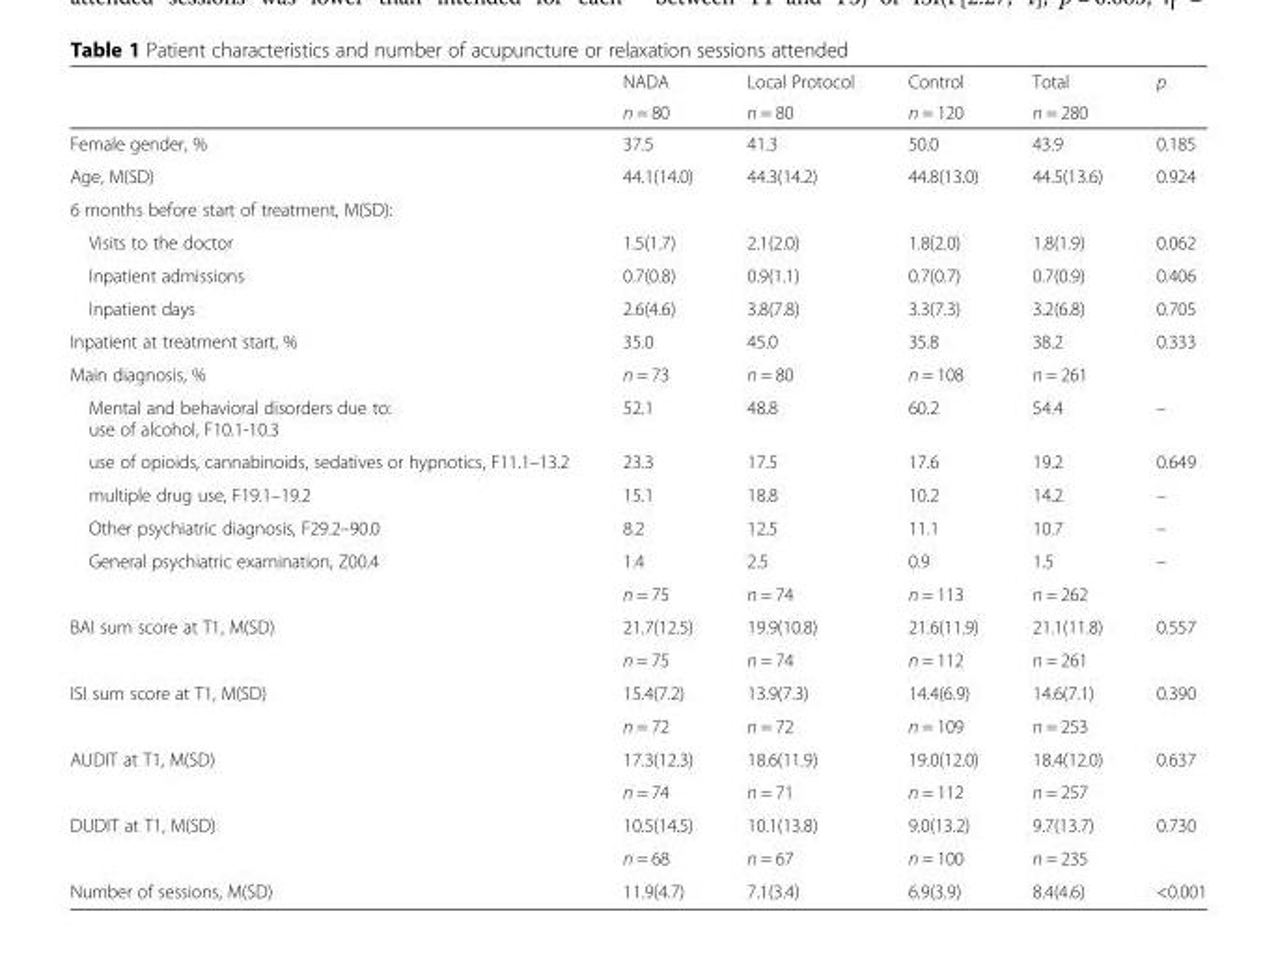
<table><thead><tr><td rowspan="2"></td><td rowspan="2">NADA n = 80</td><td rowspan="2">Local Protocol n = 80</td><td rowspan="2">Control n = 120</td><td rowspan="2">Total n = 280</td><td rowspan="2">p</td></tr><tr></tr></thead><tbody><tr><td>Female gender, %</td><td>37.5</td><td>41.3</td><td>50.0</td><td>43.9</td><td>0.185</td></tr><tr><td>Age, M(SD)</td><td>44.1(14.0)</td><td>44.3(14.2)</td><td>44.8(13.0)</td><td>44.5(13.6)</td><td>0.924</td></tr><tr><td colspan="6">6 months before start of treatment, M(SD):</td></tr><tr><td>Visits to the doctor</td><td>1.5(1.7)</td><td>2.1(2.0)</td><td>1.8(2.0)</td><td>1.8(1.9)</td><td>0.062</td></tr><tr><td>Inpatient admissions</td><td>0.7(0.8)</td><td>0.9(1.1)</td><td>0.7(0.7)</td><td>0.7(0.9)</td><td>0.406</td></tr><tr><td>Inpatient days</td><td>2.6(4.6)</td><td>3.8(7.8)</td><td>3.3(7.3)</td><td>3.2(6.8)</td><td>0.705</td></tr><tr><td>Inpatient at treatment start, %</td><td>35.0</td><td>45.0</td><td>35.8</td><td>38.2</td><td>0.333</td></tr><tr><td>Main diagnosis, %</td><td>n = 73</td><td>n = 80</td><td>n = 108</td><td>n = 261</td><td></td></tr><tr><td>Mental and behavioral disorders due to: use of alcohol, F10.1-10.3</td><td>52.1</td><td>48.8</td><td>60.2</td><td>54.4</td><td>–</td></tr><tr><td>use of opioids, cannabinoids, sedatives or hypnotics, F11.1–13.2</td><td>23.3</td><td>17.5</td><td>17.6</td><td>19.2</td><td>0.649</td></tr><tr><td>multiple drug use, F19.1–19.2</td><td>15.1</td><td>18.8</td><td>10.2</td><td>14.2</td><td>–</td></tr><tr><td>Other psychiatric diagnosis, F29.2–90.0</td><td>8.2</td><td>12.5</td><td>11.1</td><td>10.7</td><td>–</td></tr><tr><td rowspan="2">General psychiatric examination, Z00.4</td><td>1.4</td><td>2.5</td><td>0.9</td><td>1.5</td><td>–</td></tr><tr><td>n = 75</td><td>n = 74</td><td>n = 113</td><td>n = 262</td><td></td></tr><tr><td rowspan="2">BAI sum score at T1, M(SD)</td><td>21.7(12.5)</td><td>19.9(10.8)</td><td>21.6(11.9)</td><td>21.1(11.8)</td><td>0.557</td></tr><tr><td>n = 75</td><td>n = 74</td><td>n = 112</td><td>n = 261</td><td></td></tr><tr><td rowspan="2">ISI sum score at T1, M(SD)</td><td>15.4(7.2)</td><td>13.9(7.3)</td><td>14.4(6.9)</td><td>14.6(7.1)</td><td>0.390</td></tr><tr><td>n = 72</td><td>n = 72</td><td>n = 109</td><td>n = 253</td><td></td></tr><tr><td rowspan="2">AUDIT at T1, M(SD)</td><td>17.3(12.3)</td><td>18.6(11.9)</td><td>19.0(12.0)</td><td>18.4(12.0)</td><td>0.637</td></tr><tr><td>n = 74</td><td>n = 71</td><td>n = 112</td><td>n = 257</td><td></td></tr><tr><td rowspan="2">DUDIT at T1, M(SD)</td><td>10.5(14.5)</td><td>10.1(13.8)</td><td>9.0(13.2)</td><td>9.7(13.7)</td><td>0.730</td></tr><tr><td>n = 68</td><td>n = 67</td><td>n = 100</td><td>n = 235</td><td></td></tr><tr><td>Number of sessions, M(SD)</td><td>11.9(4.7)</td><td>7.1(3.4)</td><td>6.9(3.9)</td><td>8.4(4.6)</td><td>&lt;0.001</td></tr></tbody></table>